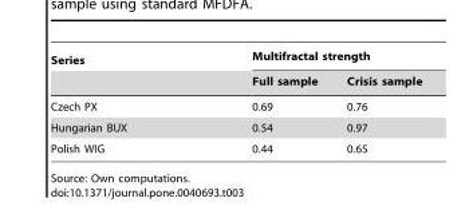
<table><thead><tr><td rowspan="2">Series</td><td colspan="2">Multifractal strength</td></tr><tr><td>Full sample</td><td>Crisis sample</td></tr></thead><tbody><tr><td>Czech PX</td><td>0.69</td><td>0.76</td></tr><tr><td>Hungarian BUX</td><td>0.54</td><td>0.97</td></tr><tr><td>Polish WIG</td><td>0.44</td><td>0.65</td></tr></tbody></table>